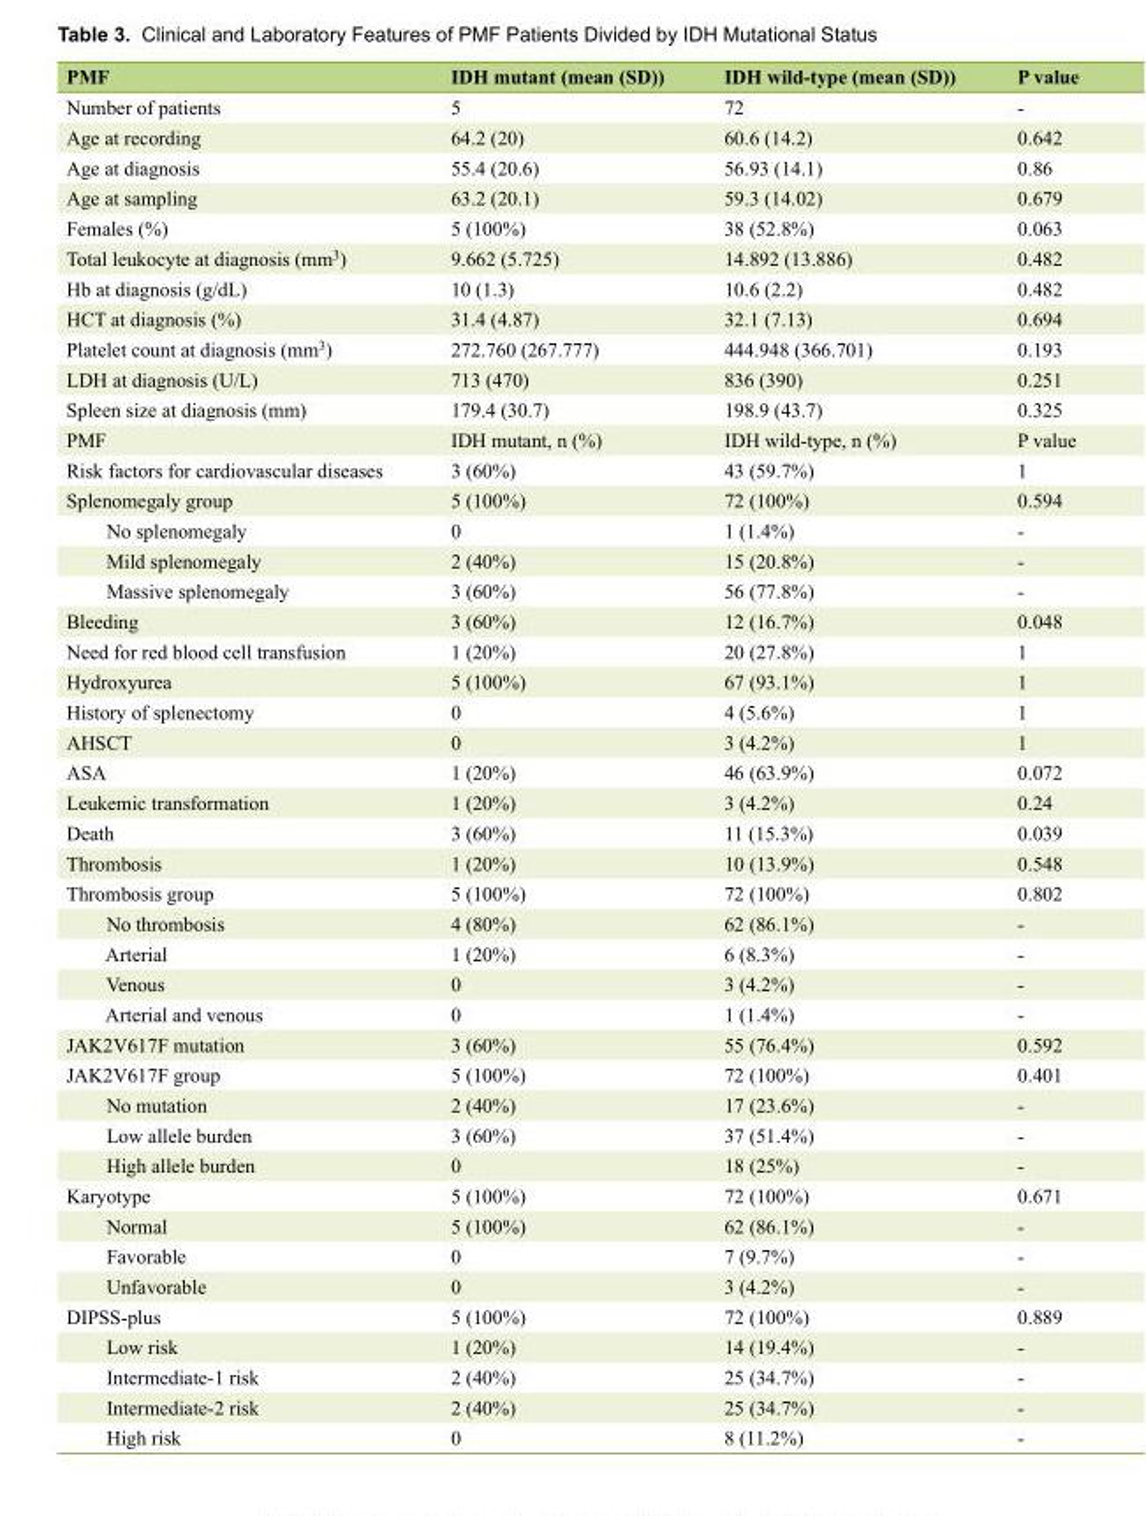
<table><thead><tr><td>PMF</td><td>IDH mutant (mean (SD))</td><td>IDH wild-type (mean (SD))</td><td>P value</td></tr></thead><tbody><tr><td>Number of patients</td><td>5</td><td>72</td><td>-</td></tr><tr><td>Age at recording</td><td>64.2 (20)</td><td>60.6 (14.2)</td><td>0.642</td></tr><tr><td>Age at diagnosis</td><td>55.4 (20.6)</td><td>56.93 (14.1)</td><td>0.86</td></tr><tr><td>Age at sampling</td><td>63.2 (20.1)</td><td>59.3 (14.02)</td><td>0.679</td></tr><tr><td>Females (%)</td><td>5 (100%)</td><td>38 (52.8%)</td><td>0.063</td></tr><tr><td>Total leukocyte at diagnosis (mm<sup>3</sup>)</td><td>9.662 (5.725)</td><td>14.892 (13.886)</td><td>0.482</td></tr><tr><td>Hb at diagnosis (g/dL)</td><td>10 (1.3)</td><td>10.6 (2.2)</td><td>0.482</td></tr><tr><td>HCT at diagnosis (%)</td><td>31.4 (4.87)</td><td>32.1 (7.13)</td><td>0.694</td></tr><tr><td>Platelet count at diagnosis (mm<sup>3</sup>)</td><td>272.760 (267.777)</td><td>444.948 (366.701)</td><td>0.193</td></tr><tr><td>LDH at diagnosis (U/L)</td><td>713 (470)</td><td>836 (390)</td><td>0.251</td></tr><tr><td>Spleen size at diagnosis (mm)</td><td>179.4 (30.7)</td><td>198.9 (43.7)</td><td>0.325</td></tr><tr><td>PMF</td><td>IDH mutant, n (%)</td><td>IDH wild-type, n (%)</td><td>P value</td></tr><tr><td>Risk factors for cardiovascular diseases</td><td>3 (60%)</td><td>43 (59.7%)</td><td>1</td></tr><tr><td>Splenomegaly group</td><td>5 (100%)</td><td>72 (100%)</td><td>0.594</td></tr><tr><td>No splenomegaly</td><td>0</td><td>1 (1.4%)</td><td>-</td></tr><tr><td>Mild splenomegaly</td><td>2 (40%)</td><td>15 (20.8%)</td><td>-</td></tr><tr><td>Massive splenomegaly</td><td>3 (60%)</td><td>56 (77.8%)</td><td>-</td></tr><tr><td>Bleeding</td><td>3 (60%)</td><td>12 (16.7%)</td><td>0.048</td></tr><tr><td>Need for red blood cell transfusion</td><td>1 (20%)</td><td>20 (27.8%)</td><td>1</td></tr><tr><td>Hydroxyurea</td><td>5 (100%)</td><td>67 (93.1%)</td><td>1</td></tr><tr><td>History of splenectomy</td><td>0</td><td>4 (5.6%)</td><td>1</td></tr><tr><td>AHSCT</td><td>0</td><td>3 (4.2%)</td><td>1</td></tr><tr><td>ASA</td><td>1 (20%)</td><td>46 (63.9%)</td><td>0.072</td></tr><tr><td>Leukemic transformation</td><td>1 (20%)</td><td>3 (4.2%)</td><td>0.24</td></tr><tr><td>Death</td><td>3 (60%)</td><td>11 (15.3%)</td><td>0.039</td></tr><tr><td>Thrombosis</td><td>1 (20%)</td><td>10 (13.9%)</td><td>0.548</td></tr><tr><td>Thrombosis group</td><td>5 (100%)</td><td>72 (100%)</td><td>0.802</td></tr><tr><td>No thrombosis</td><td>4 (80%)</td><td>62 (86.1%)</td><td>-</td></tr><tr><td>Arterial</td><td>1 (20%)</td><td>6 (8.3%)</td><td>-</td></tr><tr><td>Venous</td><td>0</td><td>3 (4.2%)</td><td>-</td></tr><tr><td>Arterial and venous</td><td>0</td><td>1 (1.4%)</td><td>-</td></tr><tr><td>JAK2V617F mutation</td><td>3 (60%)</td><td>55 (76.4%)</td><td>0.592</td></tr><tr><td>JAK2V617F group</td><td>5 (100%)</td><td>72 (100%)</td><td>0.401</td></tr><tr><td>No mutation</td><td>2 (40%)</td><td>17 (23.6%)</td><td>-</td></tr><tr><td>Low allele burden</td><td>3 (60%)</td><td>37 (51.4%)</td><td>-</td></tr><tr><td>High allele burden</td><td>0</td><td>18 (25%)</td><td>-</td></tr><tr><td>Karyotype</td><td>5 (100%)</td><td>72 (100%)</td><td>0.671</td></tr><tr><td>Normal</td><td>5 (100%)</td><td>62 (86.1%)</td><td>-</td></tr><tr><td>Favorable</td><td>0</td><td>7 (9.7%)</td><td>-</td></tr><tr><td>Unfavorable</td><td>0</td><td>3 (4.2%)</td><td>-</td></tr><tr><td>DIPSS-plus</td><td>5 (100%)</td><td>72 (100%)</td><td>0.889</td></tr><tr><td>Low risk</td><td>1 (20%)</td><td>14 (19.4%)</td><td>-</td></tr><tr><td>Intermediate-1 risk</td><td>2 (40%)</td><td>25 (34.7%)</td><td>-</td></tr><tr><td>Intermediate-2 risk</td><td>2 (40%)</td><td>25 (34.7%)</td><td>-</td></tr><tr><td>High risk</td><td>0</td><td>8 (11.2%)</td><td>-</td></tr></tbody></table>